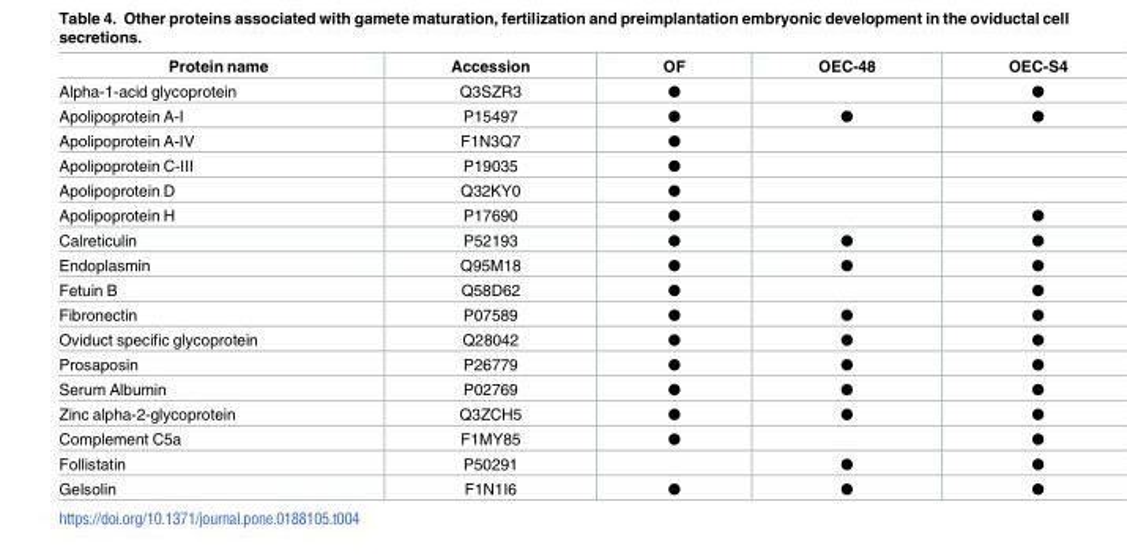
<table><thead><tr><td>Protein name</td><td>Accession</td><td>OF</td><td>OEC-48</td><td>OEC-S4</td></tr></thead><tbody><tr><td>Alpha-1-acid glycoprotein</td><td>Q3SZR3</td><td>●</td><td></td><td>●</td></tr><tr><td>Apolipoprotein A-I</td><td>P15497</td><td>●</td><td>●</td><td>●</td></tr><tr><td>Apolipoprotein A-IV</td><td>F1N3Q7</td><td>●</td><td></td><td></td></tr><tr><td>Apolipoprotein C-III</td><td>P19035</td><td>●</td><td></td><td></td></tr><tr><td>Apolipoprotein D</td><td>Q32KY0</td><td>●</td><td></td><td></td></tr><tr><td>Apolipoprotein H</td><td>P17690</td><td>●</td><td></td><td>●</td></tr><tr><td>Calreticulin</td><td>P52193</td><td>●</td><td>●</td><td>●</td></tr><tr><td>Endoplasmin</td><td>Q95M18</td><td>●</td><td>●</td><td>●</td></tr><tr><td>Fetuin B</td><td>Q58D62</td><td>●</td><td></td><td>●</td></tr><tr><td>Fibronectin</td><td>P07589</td><td>●</td><td>●</td><td>●</td></tr><tr><td>Oviduct specific glycoprotein</td><td>Q28042</td><td>●</td><td>●</td><td>●</td></tr><tr><td>Prosaposin</td><td>P26779</td><td>●</td><td>●</td><td>●</td></tr><tr><td>Serum Albumin</td><td>P02769</td><td>●</td><td>●</td><td>●</td></tr><tr><td>Zinc alpha-2-glycoprotein</td><td>Q3ZCH5</td><td>●</td><td>●</td><td>●</td></tr><tr><td>Complement C5a</td><td>F1MY85</td><td>●</td><td></td><td>●</td></tr><tr><td>Follistatin</td><td>P50291</td><td></td><td>●</td><td>●</td></tr><tr><td>Gelsolin</td><td>F1N1I6</td><td>●</td><td>●</td><td>●</td></tr></tbody></table>